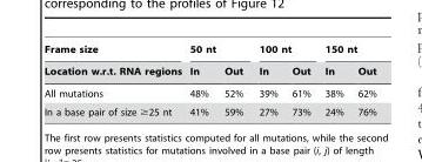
<table><thead><tr><td rowspan="2">Frame size Location w.r.t. RNA regions</td><td colspan="2">50 nt</td><td colspan="2">100 nt</td><td colspan="2">150 nt</td></tr><tr><td>In</td><td>Out</td><td>In</td><td>Out</td><td>In</td><td>Out</td></tr></thead><tbody><tr><td>All mutations</td><td>48%</td><td>52%</td><td>39%</td><td>61%</td><td>38%</td><td>62%</td></tr><tr><td>In a base pair of size ≥25 nt</td><td>41%</td><td>59%</td><td>27%</td><td>73%</td><td>24%</td><td>76%</td></tr></tbody></table>